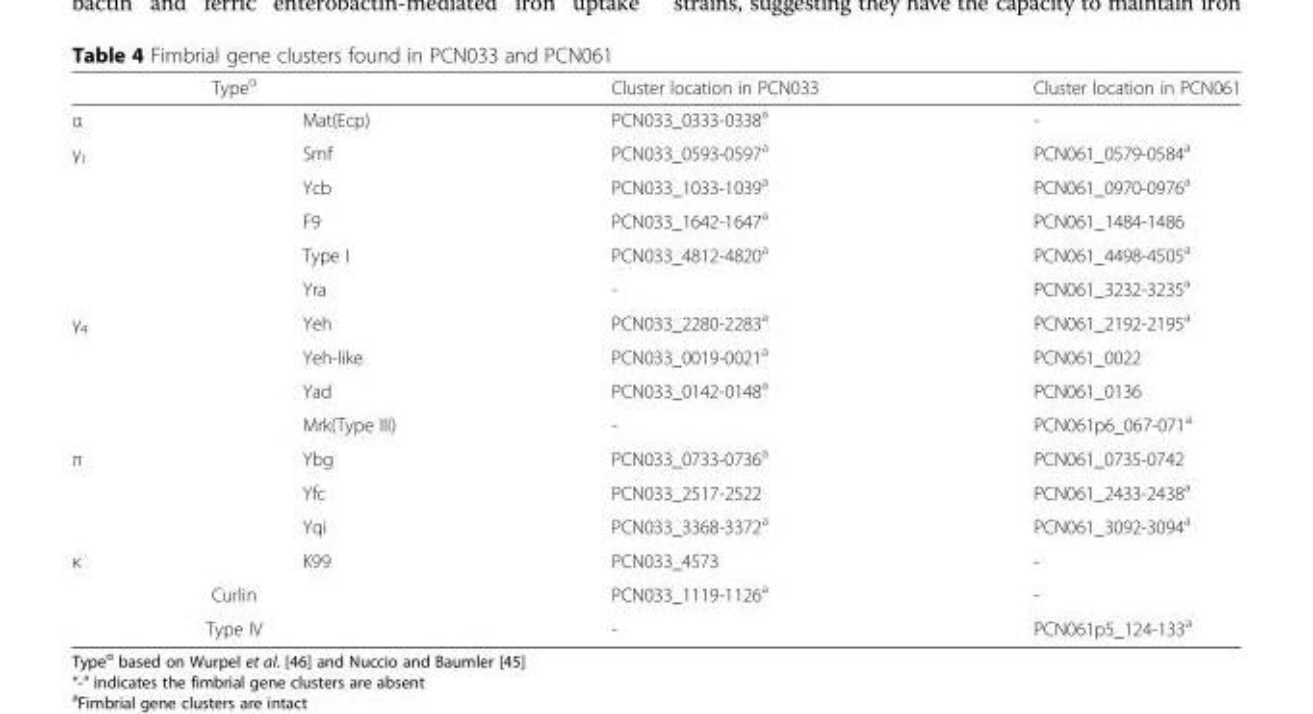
<table><thead><tr><td colspan="2">Type<sup>α</sup></td><td rowspan="2">Cluster location in PCN033 PCN033_0333-0338<sup>a</sup></td><td rowspan="2">Cluster location in PCN061 -</td></tr><tr><td>α</td><td>Mat(Ecp)</td></tr></thead><tbody><tr><td rowspan="5">γ<sub>1</sub></td><td>Smf</td><td>PCN033_0593-0597<sup>a</sup></td><td>PCN061_0579-0584<sup>a</sup></td></tr><tr><td>Ycb</td><td>PCN033_1033-1039<sup>a</sup></td><td>PCN061_0970-0976<sup>a</sup></td></tr><tr><td>F9</td><td>PCN033_1642-1647<sup>a</sup></td><td>PCN061_1484-1486</td></tr><tr><td>Type I</td><td>PCN033_4812-4820<sup>a</sup></td><td>PCN061_4498-4505<sup>a</sup></td></tr><tr><td>Yra</td><td>-</td><td>PCN061_3232-3235<sup>a</sup></td></tr><tr><td rowspan="4">γ<sub>4</sub></td><td>Yeh</td><td>PCN033_2280-2283<sup>a</sup></td><td>PCN061_2192-2195<sup>a</sup></td></tr><tr><td>Yeh-like</td><td>PCN033_0019-0021<sup>a</sup></td><td>PCN061_0022</td></tr><tr><td>Yad</td><td>PCN033_0142-0148<sup>a</sup></td><td>PCN061_0136</td></tr><tr><td>Mrk(Type III)</td><td>-</td><td>PCN061p6_067-071<sup>a</sup></td></tr><tr><td rowspan="3">π</td><td>Ybg</td><td>PCN033_0733-0736<sup>a</sup></td><td>PCN061_0735-0742</td></tr><tr><td>Yfc</td><td>PCN033_2517-2522</td><td>PCN061_2433-2438<sup>a</sup></td></tr><tr><td>Yqi</td><td>PCN033_3368-3372<sup>a</sup></td><td>PCN061_3092-3094<sup>a</sup></td></tr><tr><td>κ</td><td>K99</td><td>PCN033_4573</td><td>-</td></tr><tr><td colspan="2">Curlin</td><td>PCN033_1119-1126<sup>a</sup></td><td>-</td></tr><tr><td colspan="2">Type IV</td><td>-</td><td>PCN061p5_124-133<sup>a</sup></td></tr></tbody></table>